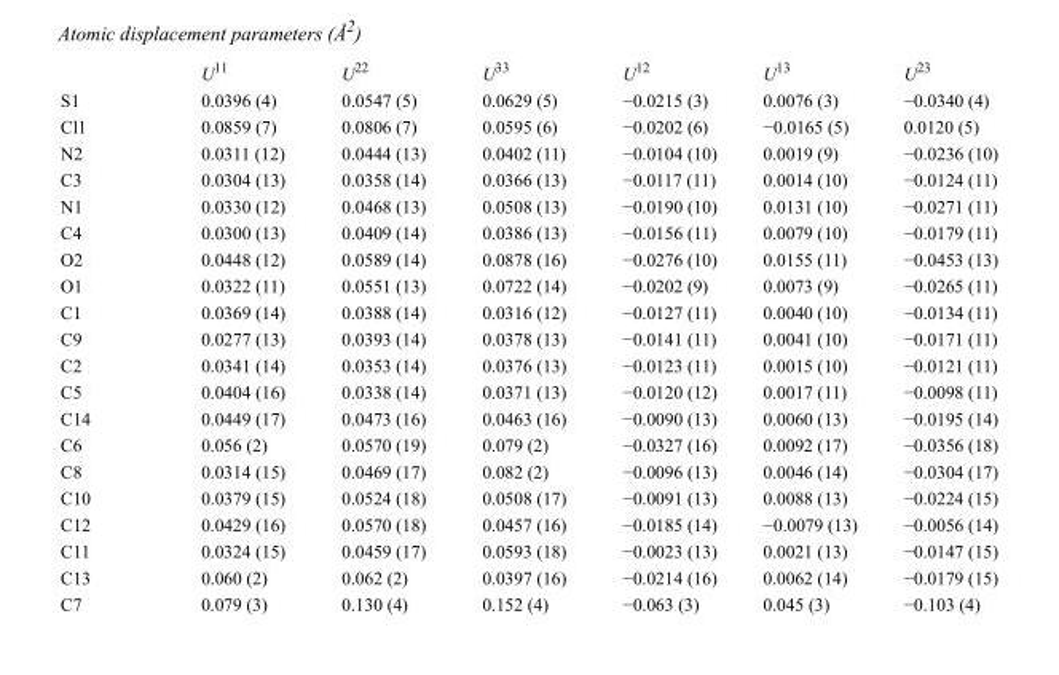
<table><thead><tr><td></td><td>U<sup>11</sup></td><td>U<sup>22</sup></td><td>U<sup>33</sup></td><td>U<sup>12</sup></td><td>U<sup>13</sup></td><td>U<sup>23</sup></td></tr></thead><tbody><tr><td>S1</td><td>0.0396 (4)</td><td>0.0547 (5)</td><td>0.0629 (5)</td><td>−0.0215 (3)</td><td>0.0076 (3)</td><td>−0.0340 (4)</td></tr><tr><td>Cl1</td><td>0.0859 (7)</td><td>0.0806 (7)</td><td>0.0595 (6)</td><td>−0.0202 (6)</td><td>−0.0165 (5)</td><td>0.0120 (5)</td></tr><tr><td>N2</td><td>0.0311 (12)</td><td>0.0444 (13)</td><td>0.0402 (11)</td><td>−0.0104 (10)</td><td>0.0019 (9)</td><td>−0.0236 (10)</td></tr><tr><td>C3</td><td>0.0304 (13)</td><td>0.0358 (14)</td><td>0.0366 (13)</td><td>−0.0117 (11)</td><td>0.0014 (10)</td><td>−0.0124 (11)</td></tr><tr><td>N1</td><td>0.0330 (12)</td><td>0.0468 (13)</td><td>0.0508 (13)</td><td>−0.0190 (10)</td><td>0.0131 (10)</td><td>−0.0271 (11)</td></tr><tr><td>C4</td><td>0.0300 (13)</td><td>0.0409 (14)</td><td>0.0386 (13)</td><td>−0.0156 (11)</td><td>0.0079 (10)</td><td>−0.0179 (11)</td></tr><tr><td>O2</td><td>0.0448 (12)</td><td>0.0589 (14)</td><td>0.0878 (16)</td><td>−0.0276 (10)</td><td>0.0155 (11)</td><td>−0.0453 (13)</td></tr><tr><td>O1</td><td>0.0322 (11)</td><td>0.0551 (13)</td><td>0.0722 (14)</td><td>−0.0202 (9)</td><td>0.0073 (9)</td><td>−0.0265 (11)</td></tr><tr><td>C1</td><td>0.0369 (14)</td><td>0.0388 (14)</td><td>0.0316 (12)</td><td>−0.0127 (11)</td><td>0.0040 (10)</td><td>−0.0134 (11)</td></tr><tr><td>C9</td><td>0.0277 (13)</td><td>0.0393 (14)</td><td>0.0378 (13)</td><td>−0.0141 (11)</td><td>0.0041 (10)</td><td>−0.0171 (11)</td></tr><tr><td>C2</td><td>0.0341 (14)</td><td>0.0353 (14)</td><td>0.0376 (13)</td><td>−0.0123 (11)</td><td>0.0015 (10)</td><td>−0.0121 (11)</td></tr><tr><td>C5</td><td>0.0404 (16)</td><td>0.0338 (14)</td><td>0.0371 (13)</td><td>−0.0120 (12)</td><td>0.0017 (11)</td><td>−0.0098 (11)</td></tr><tr><td>C14</td><td>0.0449 (17)</td><td>0.0473 (16)</td><td>0.0463 (16)</td><td>−0.0090 (13)</td><td>0.0060 (13)</td><td>−0.0195 (14)</td></tr><tr><td>C6</td><td>0.056 (2)</td><td>0.0570 (19)</td><td>0.079 (2)</td><td>−0.0327 (16)</td><td>0.0092 (17)</td><td>−0.0356 (18)</td></tr><tr><td>C8</td><td>0.0314 (15)</td><td>0.0469 (17)</td><td>0.082 (2)</td><td>−0.0096 (13)</td><td>0.0046 (14)</td><td>−0.0304 (17)</td></tr><tr><td>C10</td><td>0.0379 (15)</td><td>0.0524 (18)</td><td>0.0508 (17)</td><td>−0.0091 (13)</td><td>0.0088 (13)</td><td>−0.0224 (15)</td></tr><tr><td>C12</td><td>0.0429 (16)</td><td>0.0570 (18)</td><td>0.0457 (16)</td><td>−0.0185 (14)</td><td>−0.0079 (13)</td><td>−0.0056 (14)</td></tr><tr><td>C11</td><td>0.0324 (15)</td><td>0.0459 (17)</td><td>0.0593 (18)</td><td>−0.0023 (13)</td><td>0.0021 (13)</td><td>−0.0147 (15)</td></tr><tr><td>C13</td><td>0.060 (2)</td><td>0.062 (2)</td><td>0.0397 (16)</td><td>−0.0214 (16)</td><td>0.0062 (14)</td><td>−0.0179 (15)</td></tr><tr><td>C7</td><td>0.079 (3)</td><td>0.130 (4)</td><td>0.152 (4)</td><td>−0.063 (3)</td><td>0.045 (3)</td><td>−0.103 (4)</td></tr></tbody></table>